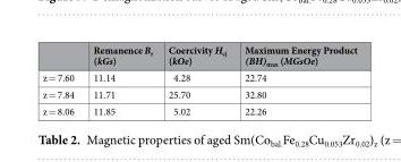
<table><thead><tr><td></td><td>Remanence B<sub>r</sub> (kGs)</td><td>Coercivity H<sub>cj</sub> (kOe)</td><td>Maximum Energy Product (BH)<sub>max</sub> (MGsOe)</td></tr></thead><tbody><tr><td>z = 7.60</td><td>11.14</td><td>4.28</td><td>22.74</td></tr><tr><td>z = 7.84</td><td>11.71</td><td>25.70</td><td>32.80</td></tr><tr><td>z = 8.06</td><td>11.85</td><td>5.02</td><td>22.26</td></tr></tbody></table>